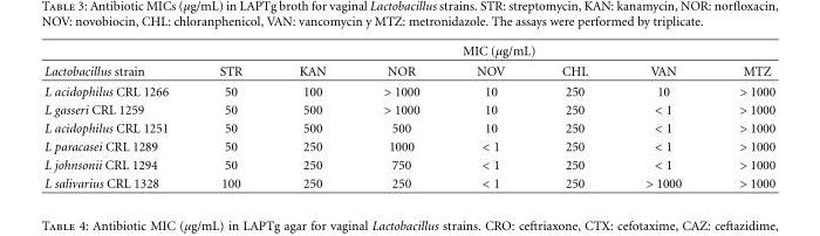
<table><thead><tr><td rowspan="2">Lactobacillus strain</td><td colspan="7">MIC (µg/mL)</td></tr><tr><td>STR</td><td>KAN</td><td>NOR</td><td>NOV</td><td>CHL</td><td>VAN</td><td>MTZ</td></tr></thead><tbody><tr><td>L acidophilus CRL 1266</td><td>50</td><td>100</td><td>&gt; 1000</td><td>10</td><td>250</td><td>10</td><td>&gt; 1000</td></tr><tr><td>L gasseri CRL 1259</td><td>50</td><td>500</td><td>&gt; 1000</td><td>10</td><td>250</td><td>&lt; 1</td><td>&gt; 1000</td></tr><tr><td>L acidophilus CRL 1251</td><td>50</td><td>500</td><td>500</td><td>10</td><td>250</td><td>&lt; 1</td><td>&gt; 1000</td></tr><tr><td>L paracasei CRL 1289</td><td>50</td><td>250</td><td>1000</td><td>&lt; 1</td><td>250</td><td>&lt; 1</td><td>&gt; 1000</td></tr><tr><td>L johnsonii CRL 1294</td><td>50</td><td>250</td><td>750</td><td>&lt; 1</td><td>250</td><td>&lt; 1</td><td>&gt; 1000</td></tr><tr><td>L salivarius CRL 1328</td><td>100</td><td>250</td><td>250</td><td>&lt; 1</td><td>250</td><td>&gt; 1000</td><td>&gt; 1000</td></tr></tbody></table>